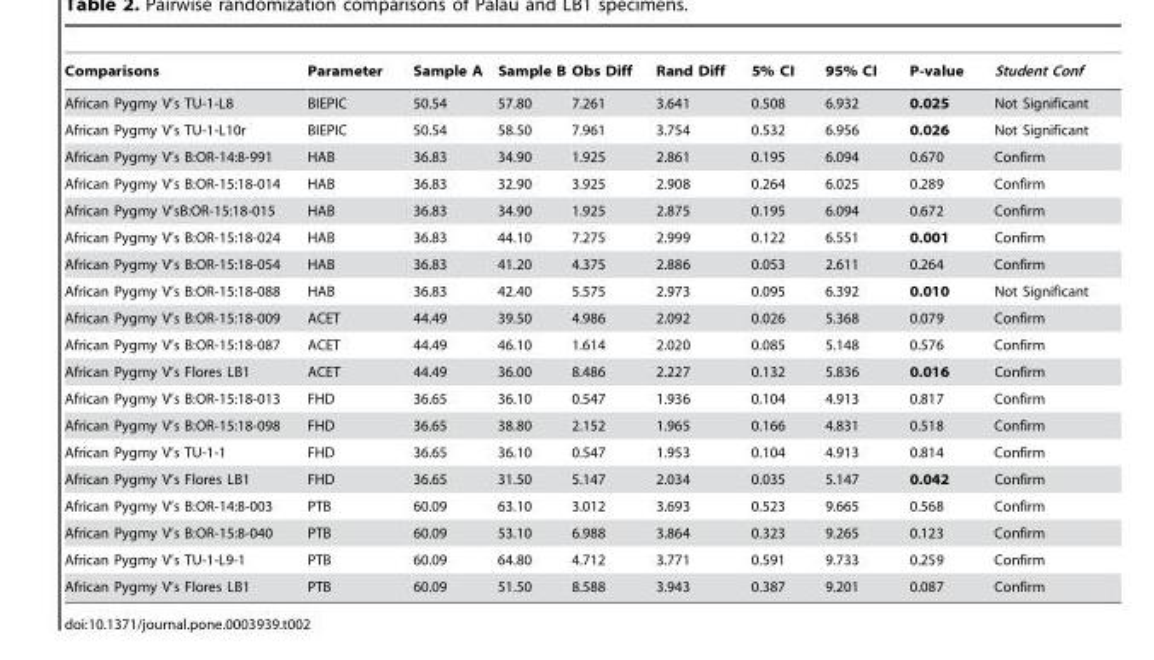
<table><thead><tr><td>Comparisons</td><td>Parameter</td><td>Sample A</td><td>Sample B</td><td>Obs Diff</td><td>Rand Diff</td><td>5% CI</td><td>95% CI</td><td>P-value</td><td>Student Conf</td></tr></thead><tbody><tr><td>African Pygmy V’s TU-1-L8</td><td>BIEPIC</td><td>50.54</td><td>57.80</td><td>7.261</td><td>3.641</td><td>0.508</td><td>6.932</td><td>0.025</td><td>Not Significant</td></tr><tr><td>African Pygmy V’s TU-1-L10r</td><td>BIEPIC</td><td>50.54</td><td>58.50</td><td>7.961</td><td>3.754</td><td>0.532</td><td>6.956</td><td>0.026</td><td>Not Significant</td></tr><tr><td>African Pygmy V’s B:OR-14:8-991</td><td>HAB</td><td>36.83</td><td>34.90</td><td>1.925</td><td>2.861</td><td>0.195</td><td>6.094</td><td>0.670</td><td>Confirm</td></tr><tr><td>African Pygmy V’s B:OR-15:18-014</td><td>HAB</td><td>36.83</td><td>32.90</td><td>3.925</td><td>2.908</td><td>0.264</td><td>6.025</td><td>0.289</td><td>Confirm</td></tr><tr><td>African Pygmy V’sB:OR-15:18-015</td><td>HAB</td><td>36.83</td><td>34.90</td><td>1.925</td><td>2.875</td><td>0.195</td><td>6.094</td><td>0.672</td><td>Confirm</td></tr><tr><td>African Pygmy V’s B:OR-15:18-024</td><td>HAB</td><td>36.83</td><td>44.10</td><td>7.275</td><td>2.999</td><td>0.122</td><td>6.551</td><td>0.001</td><td>Confirm</td></tr><tr><td>African Pygmy V’s B:OR-15:18-054</td><td>HAB</td><td>36.83</td><td>41.20</td><td>4.375</td><td>2.886</td><td>0.053</td><td>2.611</td><td>0.264</td><td>Confirm</td></tr><tr><td>African Pygmy V’s B:OR-15:18-088</td><td>HAB</td><td>36.83</td><td>42.40</td><td>5.575</td><td>2.973</td><td>0.095</td><td>6.392</td><td>0.010</td><td>Not Significant</td></tr><tr><td>African Pygmy V’s B:OR-15:18-009</td><td>ACET</td><td>44.49</td><td>39.50</td><td>4.986</td><td>2.092</td><td>0.026</td><td>5.368</td><td>0.079</td><td>Confirm</td></tr><tr><td>African Pygmy V’s B:OR-15:18-087</td><td>ACET</td><td>44.49</td><td>46.10</td><td>1.614</td><td>2.020</td><td>0.085</td><td>5.148</td><td>0.576</td><td>Confirm</td></tr><tr><td>African Pygmy V’s Flores LB1</td><td>ACET</td><td>44.49</td><td>36.00</td><td>8.486</td><td>2.227</td><td>0.132</td><td>5.836</td><td>0.016</td><td>Confirm</td></tr><tr><td>African Pygmy V’s B:OR-15:18-013</td><td>FHD</td><td>36.65</td><td>36.10</td><td>0.547</td><td>1.936</td><td>0.104</td><td>4.913</td><td>0.817</td><td>Confirm</td></tr><tr><td>African Pygmy V’s B:OR-15:18-098</td><td>FHD</td><td>36.65</td><td>38.80</td><td>2.152</td><td>1.965</td><td>0.166</td><td>4.831</td><td>0.518</td><td>Confirm</td></tr><tr><td>African Pygmy V’s TU-1-1</td><td>FHD</td><td>36.65</td><td>36.10</td><td>0.547</td><td>1.953</td><td>0.104</td><td>4.913</td><td>0.814</td><td>Confirm</td></tr><tr><td>African Pygmy V’s Flores LB1</td><td>FHD</td><td>36.65</td><td>31.50</td><td>5.147</td><td>2.034</td><td>0.035</td><td>5.147</td><td>0.042</td><td>Confirm</td></tr><tr><td>African Pygmy V’s B:OR-14:8-003</td><td>PTB</td><td>60.09</td><td>63.10</td><td>3.012</td><td>3.693</td><td>0.523</td><td>9.665</td><td>0.568</td><td>Confirm</td></tr><tr><td>African Pygmy V’s B:OR-15:8-040</td><td>PTB</td><td>60.09</td><td>53.10</td><td>6.988</td><td>3.864</td><td>0.323</td><td>9.265</td><td>0.123</td><td>Confirm</td></tr><tr><td>African Pygmy V’s TU-1-L9-1</td><td>PTB</td><td>60.09</td><td>64.80</td><td>4.712</td><td>3.771</td><td>0.591</td><td>9.733</td><td>0.259</td><td>Confirm</td></tr><tr><td>African Pygmy V’s Flores LB1</td><td>PTB</td><td>60.09</td><td>51.50</td><td>8.588</td><td>3.943</td><td>0.387</td><td>9.201</td><td>0.087</td><td>Confirm</td></tr></tbody></table>